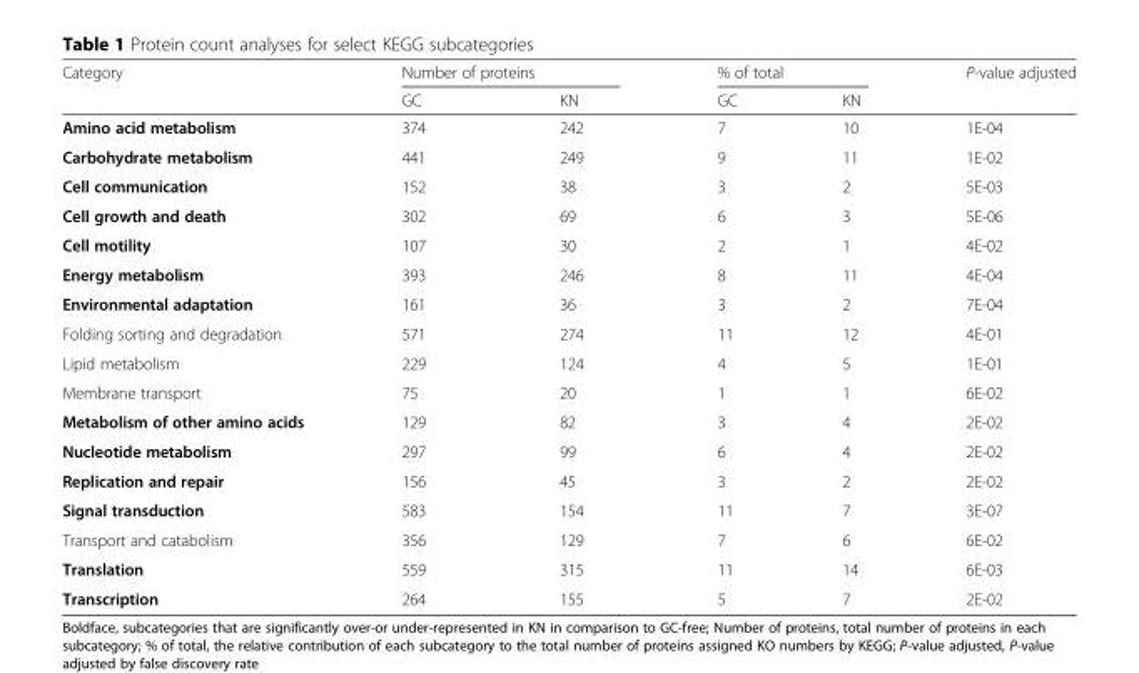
<table><thead><tr><td rowspan="2">Category</td><td colspan="2">Number of proteins</td><td colspan="2">% of total</td><td rowspan="2">P-value adjusted</td></tr><tr><td>GC</td><td>KN</td><td>GC</td><td>KN</td></tr></thead><tbody><tr><td>Amino acid metabolism</td><td>374</td><td>242</td><td>7</td><td>10</td><td>1E-04</td></tr><tr><td>Carbohydrate metabolism</td><td>441</td><td>249</td><td>9</td><td>11</td><td>1E-02</td></tr><tr><td>Cell communication</td><td>152</td><td>38</td><td>3</td><td>2</td><td>5E-03</td></tr><tr><td>Cell growth and death</td><td>302</td><td>69</td><td>6</td><td>3</td><td>5E-06</td></tr><tr><td>Cell motility</td><td>107</td><td>30</td><td>2</td><td>1</td><td>4E-02</td></tr><tr><td>Energy metabolism</td><td>393</td><td>246</td><td>8</td><td>11</td><td>4E-04</td></tr><tr><td>Environmental adaptation</td><td>161</td><td>36</td><td>3</td><td>2</td><td>7E-04</td></tr><tr><td>Folding sorting and degradation</td><td>571</td><td>274</td><td>11</td><td>12</td><td>4E-01</td></tr><tr><td>Lipid metabolism</td><td>229</td><td>124</td><td>4</td><td>5</td><td>1E-01</td></tr><tr><td>Membrane transport</td><td>75</td><td>20</td><td>1</td><td>1</td><td>6E-02</td></tr><tr><td>Metabolism of other amino acids</td><td>129</td><td>82</td><td>3</td><td>4</td><td>2E-02</td></tr><tr><td>Nucleotide metabolism</td><td>297</td><td>99</td><td>6</td><td>4</td><td>2E-02</td></tr><tr><td>Replication and repair</td><td>156</td><td>45</td><td>3</td><td>2</td><td>2E-02</td></tr><tr><td>Signal transduction</td><td>583</td><td>154</td><td>11</td><td>7</td><td>3E-07</td></tr><tr><td>Transport and catabolism</td><td>356</td><td>129</td><td>7</td><td>6</td><td>6E-02</td></tr><tr><td>Translation</td><td>559</td><td>315</td><td>11</td><td>14</td><td>6E-03</td></tr><tr><td>Transcription</td><td>264</td><td>155</td><td>5</td><td>7</td><td>2E-02</td></tr></tbody></table>